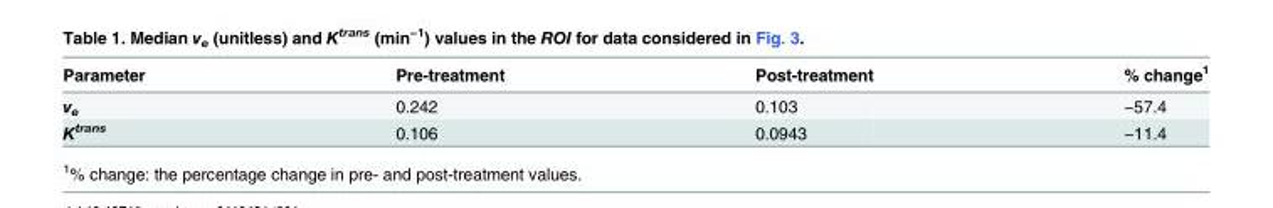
<table><thead><tr><td>Parameter</td><td>Pre-treatment</td><td>Post-treatment</td><td>% change<sup>1</sup></td></tr></thead><tbody><tr><td>v<sub>e</sub></td><td>0.242</td><td>0.103</td><td>−57.4</td></tr><tr><td>K<sup>trans</sup></td><td>0.106</td><td>0.0943</td><td>−11.4</td></tr></tbody></table>